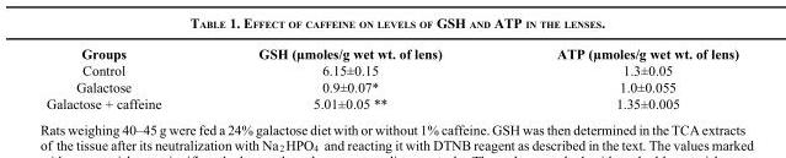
<table><thead><tr><td>Groups</td><td>GSH (µmoles/g wet wt. of lens)</td><td>ATP (µmoles/g wet wt. of lens)</td></tr></thead><tbody><tr><td>Control</td><td>6.15±0.15</td><td>1.3±0.05</td></tr><tr><td>Galactose</td><td>0.9±0.07*</td><td>1.0±0.055</td></tr><tr><td>Galactose + caffeine</td><td>5.01±0.05 **</td><td>1.35±0.005</td></tr></tbody></table>